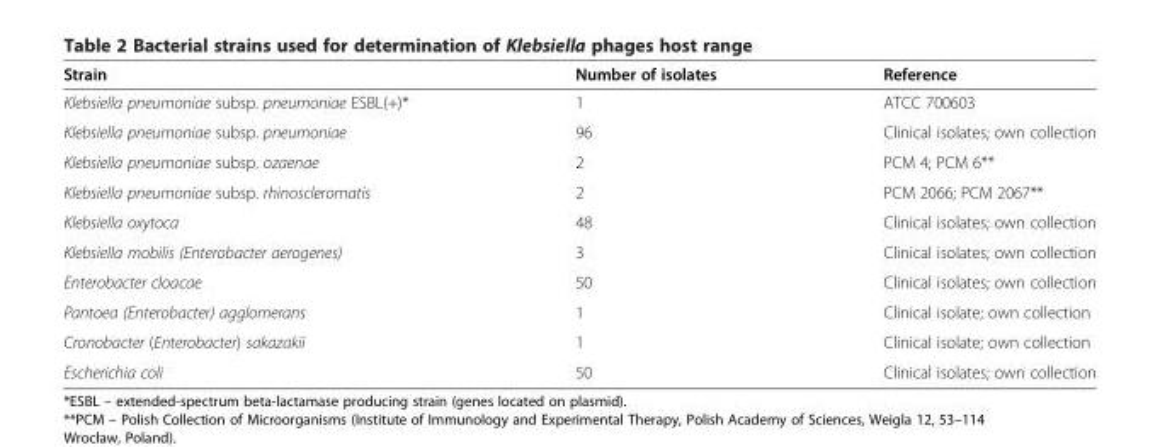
<table><thead><tr><td>Strain</td><td>Number of isolates</td><td>Reference</td></tr></thead><tbody><tr><td>Klebsiella pneumoniae subsp. pneumoniae ESBL(+)*</td><td>1</td><td>ATCC 700603</td></tr><tr><td>Klebsiella pneumoniae subsp. pneumoniae</td><td>96</td><td>Clinical isolates; own collection</td></tr><tr><td>Klebsiella pneumoniae subsp. ozaenae</td><td>2</td><td>PCM 4; PCM 6**</td></tr><tr><td>Klebsiella pneumoniae subsp. rhinoscleromatis</td><td>2</td><td>PCM 2066; PCM 2067**</td></tr><tr><td>Klebsiella oxytoca</td><td>48</td><td>Clinical isolates; own collection</td></tr><tr><td>Klebsiella mobilis (Enterobacter aerogenes)</td><td>3</td><td>Clinical isolates; own collection</td></tr><tr><td>Enterobacter cloacae</td><td>50</td><td>Clinical isolates; own collection</td></tr><tr><td>Pantoea (Enterobacter) agglomerans</td><td>1</td><td>Clinical isolate; own collection</td></tr><tr><td>Cronobacter (Enterobacter) sakazakii</td><td>1</td><td>Clinical isolate; own collection</td></tr><tr><td>Escherichia coli</td><td>50</td><td>Clinical isolates; own collection</td></tr></tbody></table>